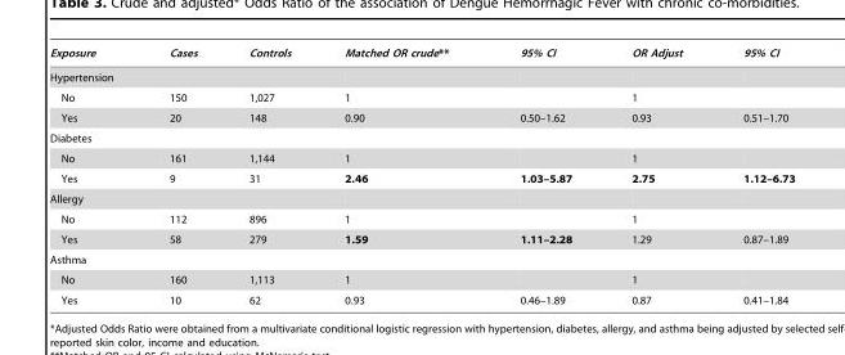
<table><thead><tr><td>Exposure</td><td>Cases</td><td>Controls</td><td>Matched OR crude**</td><td>95% CI</td><td>OR Adjust</td><td>95% CI</td></tr></thead><tbody><tr><td colspan="7">Hypertension</td></tr><tr><td>No</td><td>150</td><td>1,027</td><td>1</td><td></td><td>1</td><td></td></tr><tr><td>Yes</td><td>20</td><td>148</td><td>0.90</td><td>0.50–1.62</td><td>0.93</td><td>0.51–1.70</td></tr><tr><td colspan="7">Diabetes</td></tr><tr><td>No</td><td>161</td><td>1,144</td><td>1</td><td></td><td>1</td><td></td></tr><tr><td>Yes</td><td>9</td><td>31</td><td>2.46</td><td>1.03–5.87</td><td>2.75</td><td>1.12–6.73</td></tr><tr><td colspan="7">Allergy</td></tr><tr><td>No</td><td>112</td><td>896</td><td>1</td><td></td><td>1</td><td></td></tr><tr><td>Yes</td><td>58</td><td>279</td><td>1.59</td><td>1.11–2.28</td><td>1.29</td><td>0.87–1.89</td></tr><tr><td colspan="7">Asthma</td></tr><tr><td>No</td><td>160</td><td>1,113</td><td>1</td><td></td><td>1</td><td></td></tr><tr><td>Yes</td><td>10</td><td>62</td><td>0.93</td><td>0.46–1.89</td><td>0.87</td><td>0.41–1.84</td></tr></tbody></table>